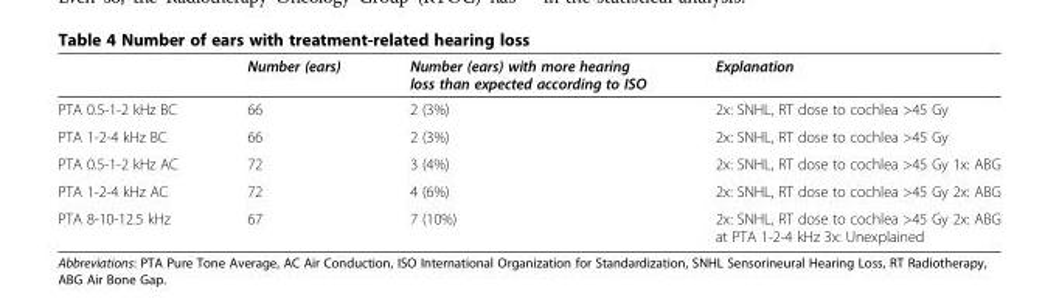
<table><thead><tr><td></td><td>Number (ears)</td><td>Number (ears) with more hearing loss than expected according to ISO</td><td>Explanation</td></tr></thead><tbody><tr><td>PTA 0.5-1-2 kHz BC</td><td>66</td><td>2 (3%)</td><td>2x: SNHL, RT dose to cochlea &gt;45 Gy</td></tr><tr><td>PTA 1-2-4 kHz BC</td><td>66</td><td>2 (3%)</td><td>2x: SNHL, RT dose to cochlea &gt;45 Gy</td></tr><tr><td>PTA 0.5-1-2 kHz AC</td><td>72</td><td>3 (4%)</td><td>2x: SNHL, RT dose to cochlea &gt;45 Gy 1x: ABG</td></tr><tr><td>PTA 1-2-4 kHz AC</td><td>72</td><td>4 (6%)</td><td>2x: SNHL, RT dose to cochlea &gt;45 Gy 2x: ABG</td></tr><tr><td>PTA 8-10-12.5 kHz</td><td>67</td><td>7 (10%)</td><td>2x: SNHL, RT dose to cochlea &gt;45 Gy 2x: ABG at PTA 1-2-4 kHz 3x: Unexplained</td></tr></tbody></table>